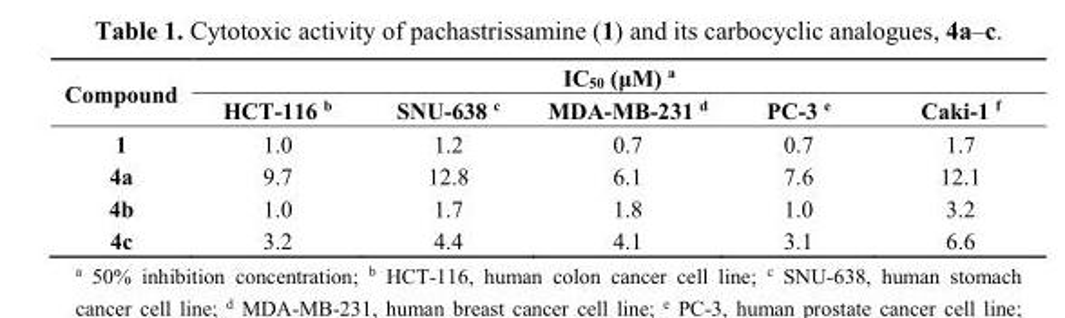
<table><thead><tr><td rowspan="2">Compound</td><td colspan="5">IC<sub>50</sub> (μM) <sup>a</sup></td></tr><tr><td>HCT-116 <sup>b</sup></td><td>SNU-638 <sup>c</sup></td><td>MDA-MB-231 <sup>d</sup></td><td>PC-3 <sup>e</sup></td><td>Caki-1 <sup>f</sup></td></tr></thead><tbody><tr><td>1</td><td>1.0</td><td>1.2</td><td>0.7</td><td>0.7</td><td>1.7</td></tr><tr><td>4a</td><td>9.7</td><td>12.8</td><td>6.1</td><td>7.6</td><td>12.1</td></tr><tr><td>4b</td><td>1.0</td><td>1.7</td><td>1.8</td><td>1.0</td><td>3.2</td></tr><tr><td>4c</td><td>3.2</td><td>4.4</td><td>4.1</td><td>3.1</td><td>6.6</td></tr></tbody></table>